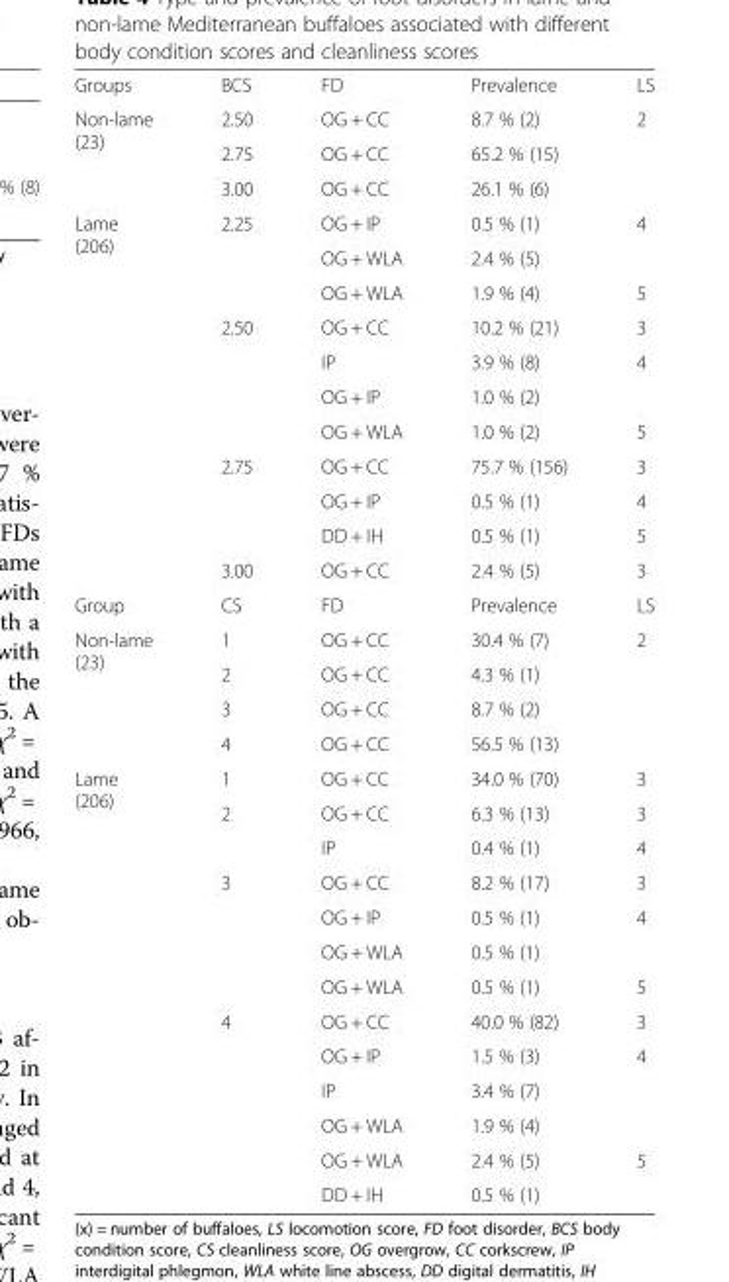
<table><tbody><tr><td>Groups</td><td>BCS</td><td>FD</td><td>Prevalence</td><td>LS</td></tr><tr><td rowspan="3">Non-lame (23)</td><td>2.50</td><td>OG + CC</td><td>8.7 % (2)</td><td rowspan="3">2</td></tr><tr><td>2.75</td><td>OG + CC</td><td>65.2 % (15)</td></tr><tr><td>3.00</td><td>OG + CC</td><td>26.1 % (6)</td></tr><tr><td rowspan="11">Lame (206)</td><td rowspan="3">2.25</td><td>OG + IP</td><td>0.5 % (1)</td><td rowspan="2">4</td></tr><tr><td>OG + WLA</td><td>2.4 % (5)</td></tr><tr><td>OG + WLA</td><td>1.9 % (4)</td><td>5</td></tr><tr><td rowspan="4">2.50</td><td>OG + CC</td><td>10.2 % (21)</td><td>3</td></tr><tr><td>IP</td><td>3.9 % (8)</td><td rowspan="2">4</td></tr><tr><td>OG + IP</td><td>1.0 % (2)</td></tr><tr><td>OG + WLA</td><td>1.0 % (2)</td><td>5</td></tr><tr><td rowspan="3">2.75</td><td>OG + CC</td><td>75.7 % (156)</td><td>3</td></tr><tr><td>OG + IP</td><td>0.5 % (1)</td><td>4</td></tr><tr><td>DD + IH</td><td>0.5 % (1)</td><td>5</td></tr><tr><td>3.00</td><td>OG + CC</td><td>2.4 % (5)</td><td>3</td></tr><tr><td>Group</td><td>CS</td><td>FD</td><td>Prevalence</td><td>LS</td></tr><tr><td rowspan="4">Non-lame (23)</td><td>1</td><td>OG + CC</td><td>30.4 % (7)</td><td rowspan="4">2</td></tr><tr><td>2</td><td>OG + CC</td><td>4.3 % (1)</td></tr><tr><td>3</td><td>OG + CC</td><td>8.7 % (2)</td></tr><tr><td>4</td><td>OG + CC</td><td>56.5 % (13)</td></tr><tr><td rowspan="13">Lame (206)</td><td>1</td><td>OG + CC</td><td>34.0 % (70)</td><td>3</td></tr><tr><td rowspan="2">2</td><td>OG + CC</td><td>6.3 % (13)</td><td>3</td></tr><tr><td>IP</td><td>0.4 % (1)</td><td>4</td></tr><tr><td rowspan="4">3</td><td>OG + CC</td><td>8.2 % (17)</td><td>3</td></tr><tr><td>OG + IP</td><td>0.5 % (1)</td><td rowspan="2">4</td></tr><tr><td>OG + WLA</td><td>0.5 % (1)</td></tr><tr><td>OG + WLA</td><td>0.5 % (1)</td><td>5</td></tr><tr><td rowspan="6">4</td><td>OG + CC</td><td>40.0 % (82)</td><td>3</td></tr><tr><td>OG + IP</td><td>1.5 % (3)</td><td rowspan="3">4</td></tr><tr><td>IP</td><td>3.4 % (7)</td></tr><tr><td>OG + WLA</td><td>1.9 % (4)</td></tr><tr><td>OG + WLA</td><td>2.4 % (5)</td><td rowspan="2">5</td></tr><tr><td>DD + IH</td><td>0.5 % (1)</td></tr></tbody></table>